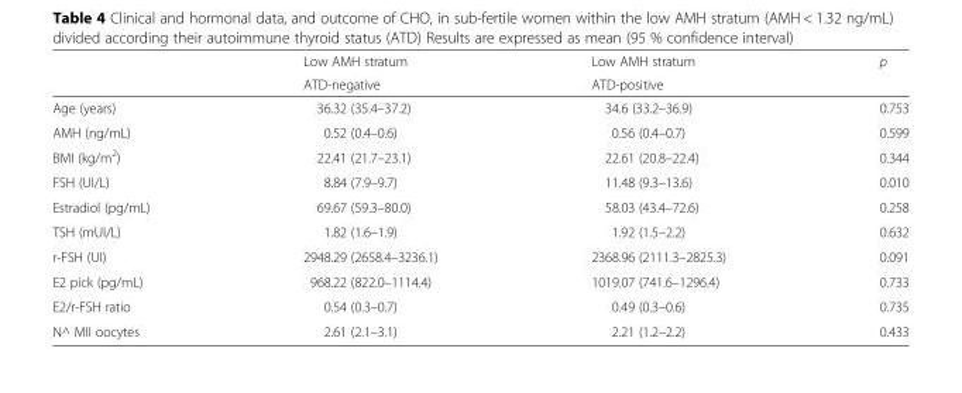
<table><thead><tr><td rowspan="2"></td><td rowspan="2">Low AMH stratum ATD-negative</td><td rowspan="2">Low AMH stratum ATD-positive</td><td rowspan="2">p</td></tr><tr></tr></thead><tbody><tr><td>Age (years)</td><td>36.32 (35.4–37.2)</td><td>34.6 (33.2–36.9)</td><td>0.753</td></tr><tr><td>AMH (ng/mL)</td><td>0.52 (0.4–0.6)</td><td>0.56 (0.4–0.7)</td><td>0.599</td></tr><tr><td>BMI (kg/m<sup>2</sup>)</td><td>22.41 (21.7–23.1)</td><td>22.61 (20.8–22.4)</td><td>0.344</td></tr><tr><td>FSH (UI/L)</td><td>8.84 (7.9–9.7)</td><td>11.48 (9.3–13.6)</td><td>0.010</td></tr><tr><td>Estradiol (pg/mL)</td><td>69.67 (59.3–80.0)</td><td>58.03 (43.4–72.6)</td><td>0.258</td></tr><tr><td>TSH (mUI/L)</td><td>1.82 (1.6–1.9)</td><td>1.92 (1.5–2.2)</td><td>0.632</td></tr><tr><td>r-FSH (UI)</td><td>2948.29 (2658.4–3236.1)</td><td>2368.96 (2111.3–2825.3)</td><td>0.091</td></tr><tr><td>E2 pick (pg/mL)</td><td>968.22 (822.0–1114.4)</td><td>1019.07 (741.6–1296.4)</td><td>0.733</td></tr><tr><td>E2/r-FSH ratio</td><td>0.54 (0.3–0.7)</td><td>0.49 (0.3–0.6)</td><td>0.735</td></tr><tr><td>N^ MII oocytes</td><td>2.61 (2.1–3.1)</td><td>2.21 (1.2–2.2)</td><td>0.433</td></tr></tbody></table>